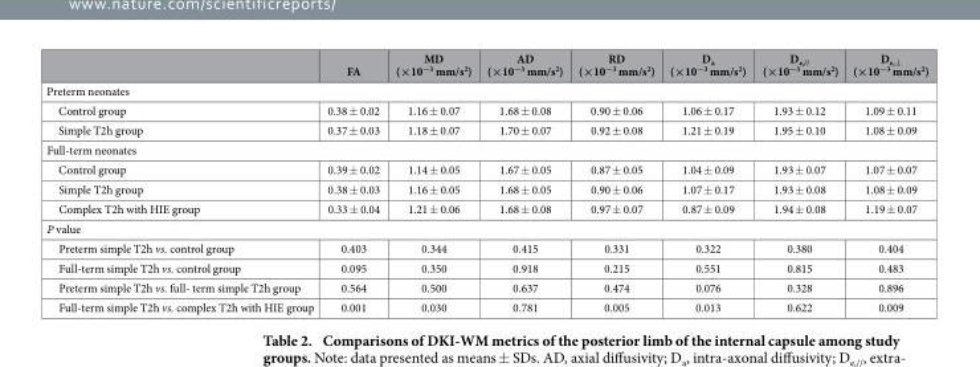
<table><thead><tr><td></td><td>FA</td><td>MD (×10<sup>−3</sup> mm/s<sup>2</sup>)</td><td>AD (×10<sup>−3</sup> mm/s<sup>2</sup>)</td><td>RD (×10<sup>−3</sup> mm/s<sup>2</sup>)</td><td>D<sub>a</sub> (×10<sup>−3</sup> mm/s<sup>2</sup>)</td><td>D<sub>e,//</sub> (×10<sup>−3</sup> mm/s<sup>2</sup>)</td><td>D<sub>e,⊥</sub> (×10<sup>−3</sup> mm/s<sup>2</sup>)</td></tr></thead><tbody><tr><td colspan="8">Preterm neonates</td></tr><tr><td>Control group</td><td>0.38 ± 0.02</td><td>1.16 ± 0.07</td><td>1.68 ± 0.08</td><td>0.90 ± 0.06</td><td>1.06 ± 0.17</td><td>1.93 ± 0.12</td><td>1.09 ± 0.11</td></tr><tr><td>Simple T2h group</td><td>0.37 ± 0.03</td><td>1.18 ± 0.07</td><td>1.70 ± 0.07</td><td>0.92 ± 0.08</td><td>1.21 ± 0.19</td><td>1.95 ± 0.10</td><td>1.08 ± 0.09</td></tr><tr><td colspan="8">Full-term neonates</td></tr><tr><td>Control group</td><td>0.39 ± 0.02</td><td>1.14 ± 0.05</td><td>1.67 ± 0.05</td><td>0.87 ± 0.05</td><td>1.04 ± 0.09</td><td>1.93 ± 0.07</td><td>1.07 ± 0.07</td></tr><tr><td>Simple T2h group</td><td>0.38 ± 0.03</td><td>1.16 ± 0.05</td><td>1.68 ± 0.05</td><td>0.90 ± 0.06</td><td>1.07 ± 0.17</td><td>1.93 ± 0.08</td><td>1.08 ± 0.09</td></tr><tr><td>Complex T2h with HIE group</td><td>0.33 ± 0.04</td><td>1.21 ± 0.06</td><td>1.68 ± 0.08</td><td>0.97 ± 0.07</td><td>0.87 ± 0.09</td><td>1.94 ± 0.08</td><td>1.19 ± 0.07</td></tr><tr><td colspan="8">P value</td></tr><tr><td>Preterm simple T2h vs. control group</td><td>0.403</td><td>0.344</td><td>0.415</td><td>0.331</td><td>0.322</td><td>0.380</td><td>0.404</td></tr><tr><td>Full-term simple T2h vs. control group</td><td>0.095</td><td>0.350</td><td>0.918</td><td>0.215</td><td>0.551</td><td>0.815</td><td>0.483</td></tr><tr><td>Preterm simple T2h vs. full- term simple T2h group</td><td>0.564</td><td>0.500</td><td>0.637</td><td>0.474</td><td>0.076</td><td>0.328</td><td>0.896</td></tr><tr><td>Full-term simple T2h vs. complex T2h with HIE group</td><td>0.001</td><td>0.030</td><td>0.781</td><td>0.005</td><td>0.013</td><td>0.622</td><td>0.009</td></tr></tbody></table>